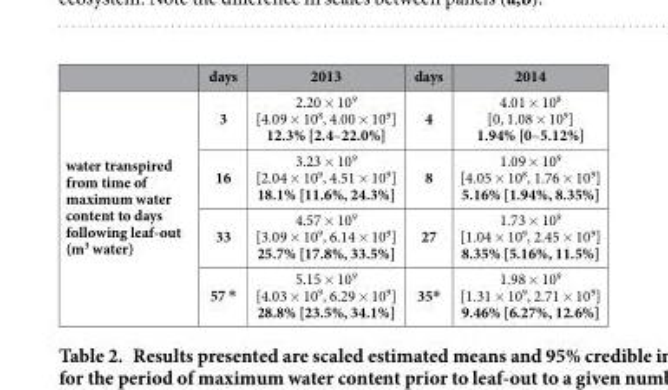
<table><thead><tr><td></td><td>days</td><td>2013</td><td>days</td><td>2014</td></tr></thead><tbody><tr><td rowspan="4">water transpired from time of maximum water content to days following leaf-out (m<sup>3</sup> water)</td><td>3</td><td>2.20 × 10<sup>9</sup> [4.09 × 10<sup>8</sup>, 4.00 × 10<sup>9</sup>] 12.3% [2.4–22.0%]</td><td>4</td><td>4.01 × 10<sup>8</sup> [0, 1.08 × 10<sup>9</sup>] 1.94% [0–5.12%]</td></tr><tr><td>16</td><td>3.23 × 10<sup>9</sup> [2.04 × 10<sup>9</sup>, 4.51 × 10<sup>9</sup>] 18.1% [11.6%, 24.3%]</td><td>8</td><td>1.09 × 10<sup>9</sup> [4.05 × 10<sup>8</sup>, 1.76 × 10<sup>9</sup>] 5.16% [1.94%, 8.35%]</td></tr><tr><td>33</td><td>4.57 × 10<sup>9</sup> [3.09 × 10<sup>9</sup>, 6.14 × 10<sup>9</sup>] 25.7% [17.8%, 33.5%]</td><td>27</td><td>1.73 × 109 [1.04 × 109, 2.45 × 109] 8.35% [5.16%, 11.5%]</td></tr><tr><td>57 *</td><td>5.15 × 10<sup>9</sup> [4.03 × 10<sup>9</sup>, 6.29 × 10<sup>9</sup>] 28.8% [23.5%, 34.1%]</td><td>35*</td><td>1.98 × 10<sup>9</sup> [1.31 × 10<sup>9</sup>, 2.71 × 10<sup>9</sup>] 9.46% [6.27%, 12.6%]</td></tr></tbody></table>